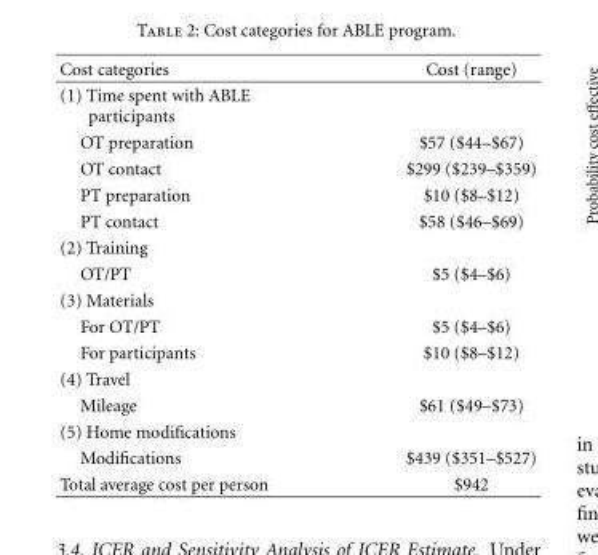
<table><thead><tr><td>Cost categories</td><td>Cost (range)</td></tr></thead><tbody><tr><td colspan="2">(1) Time spent with ABLE participants</td></tr><tr><td>OT preparation</td><td>$57 ($44–$67)</td></tr><tr><td>OT contact</td><td>$299 ($239–$359)</td></tr><tr><td>PT preparation</td><td>$10 ($8–$12)</td></tr><tr><td>PT contact</td><td>$58 ($46–$69)</td></tr><tr><td colspan="2">(2) Training</td></tr><tr><td>OT/PT</td><td>$5 ($4–$6)</td></tr><tr><td colspan="2">(3) Materials</td></tr><tr><td>For OT/PT</td><td>$5 ($4–$6)</td></tr><tr><td>For participants</td><td>$10 ($8–$12)</td></tr><tr><td colspan="2">(4) Travel</td></tr><tr><td>Mileage</td><td>$61 ($49–$73)</td></tr><tr><td colspan="2">(5) Home modifications</td></tr><tr><td>Modifications</td><td>$439 ($351–$527)</td></tr><tr><td>Total average cost per person</td><td>$942</td></tr></tbody></table>